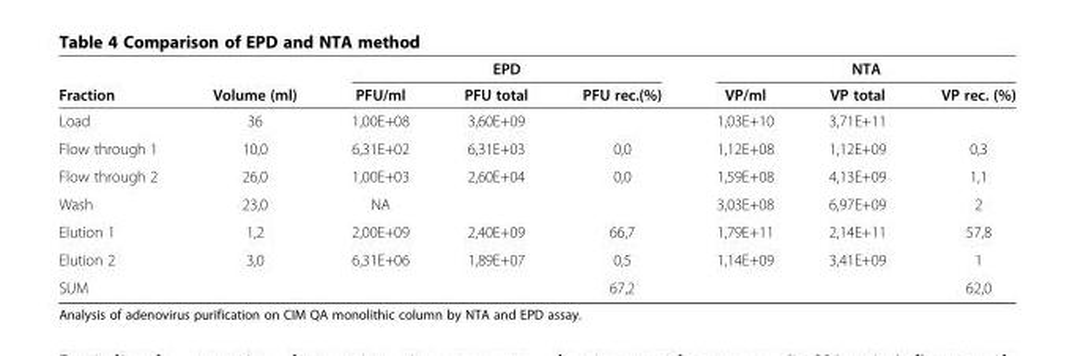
<table><thead><tr><td rowspan="2">Fraction</td><td rowspan="2">Volume (ml)</td><td colspan="3">EPD</td><td rowspan="2">VP/ml</td><td rowspan="2">NTA VP total</td><td rowspan="2">VP rec. (%)</td></tr><tr><td>PFU/ml</td><td>PFU total</td><td>PFU rec.(%)</td></tr></thead><tbody><tr><td>Load</td><td>36</td><td>1,00E+08</td><td>3,60E+09</td><td></td><td>1,03E+10</td><td>3,71E+11</td><td></td></tr><tr><td>Flow through 1</td><td>10,0</td><td>6,31E+02</td><td>6,31E+03</td><td>0,0</td><td>1,12E+08</td><td>1,12E+09</td><td>0,3</td></tr><tr><td>Flow through 2</td><td>26,0</td><td>1,00E+03</td><td>2,60E+04</td><td>0,0</td><td>1,59E+08</td><td>4,13E+09</td><td>1,1</td></tr><tr><td>Wash</td><td>23,0</td><td>NA</td><td></td><td></td><td>3,03E+08</td><td>6,97E+09</td><td>2</td></tr><tr><td>Elution 1</td><td>1,2</td><td>2,00E+09</td><td>2,40E+09</td><td>66,7</td><td>1,79E+11</td><td>2,14E+11</td><td>57,8</td></tr><tr><td>Elution 2</td><td>3,0</td><td>6,31E+06</td><td>1,89E+07</td><td>0,5</td><td>1,14E+09</td><td>3,41E+09</td><td>1</td></tr><tr><td>SUM</td><td></td><td></td><td></td><td>67,2</td><td></td><td></td><td>62,0</td></tr></tbody></table>